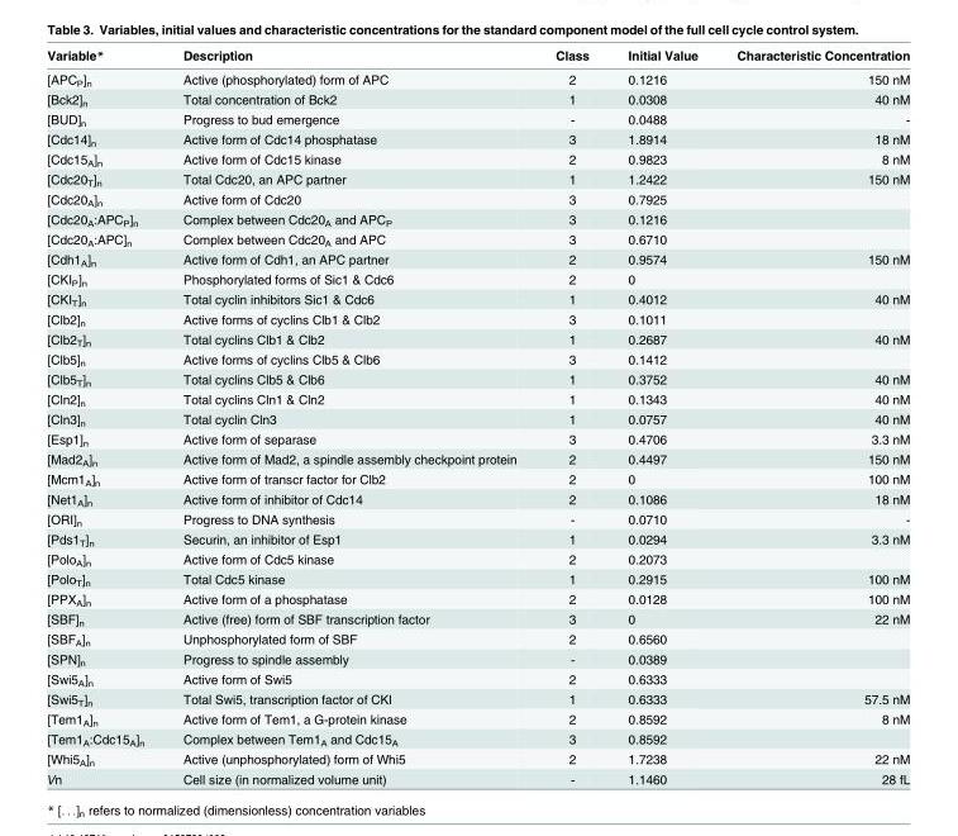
<table><thead><tr><td>Variable*</td><td>Description</td><td>Class</td><td>Initial Value</td><td>Characteristic Concentration</td></tr></thead><tbody><tr><td>[APC<sub>P</sub>]<sub>n</sub></td><td>Active (phosphorylated) form of APC</td><td>2</td><td>0.1216</td><td>150 nM</td></tr><tr><td>[Bck2]<sub>n</sub></td><td>Total concentration of Bck2</td><td>1</td><td>0.0308</td><td>40 nM</td></tr><tr><td>[BUD]<sub>n</sub></td><td>Progress to bud emergence</td><td>-</td><td>0.0488</td><td>-</td></tr><tr><td>[Cdc14]<sub>n</sub></td><td>Active form of Cdc14 phosphatase</td><td>3</td><td>1.8914</td><td>18 nM</td></tr><tr><td>[Cdc15<sub>A</sub>]<sub>n</sub></td><td>Active form of Cdc15 kinase</td><td>2</td><td>0.9823</td><td>8 nM</td></tr><tr><td>[Cdc20<sub>T</sub>]<sub>n</sub></td><td>Total Cdc20, an APC partner</td><td>1</td><td>1.2422</td><td>150 nM</td></tr><tr><td>[Cdc20<sub>A</sub>]<sub>n</sub></td><td>Active form of Cdc20</td><td>3</td><td>0.7925</td><td></td></tr><tr><td>[Cdc20<sub>A</sub>:APC<sub>P</sub>]<sub>n</sub></td><td>Complex between Cdc20<sub>A</sub> and APC<sub>P</sub></td><td>3</td><td>0.1216</td><td></td></tr><tr><td>[Cdc20<sub>A</sub>:APC]<sub>n</sub></td><td>Complex between Cdc20<sub>A</sub> and APC</td><td>3</td><td>0.6710</td><td></td></tr><tr><td>[Cdh1<sub>A</sub>]<sub>n</sub></td><td>Active form of Cdh1, an APC partner</td><td>2</td><td>0.9574</td><td>150 nM</td></tr><tr><td>[CKI<sub>P</sub>]<sub>n</sub></td><td>Phosphorylated forms of Sic1 &amp; Cdc6</td><td>2</td><td>0</td><td></td></tr><tr><td>[CKI<sub>T</sub>]<sub>n</sub></td><td>Total cyclin inhibitors Sic1 &amp; Cdc6</td><td>1</td><td>0.4012</td><td>40 nM</td></tr><tr><td>[Clb2]<sub>n</sub></td><td>Active forms of cyclins Clb1 &amp; Clb2</td><td>3</td><td>0.1011</td><td></td></tr><tr><td>[Clb2<sub>T</sub>]<sub>n</sub></td><td>Total cyclins Clb1 &amp; Clb2</td><td>1</td><td>0.2687</td><td>40 nM</td></tr><tr><td>[Clb5]<sub>n</sub></td><td>Active forms of cyclins Clb5 &amp; Clb6</td><td>3</td><td>0.1412</td><td></td></tr><tr><td>[Clb5<sub>T</sub>]<sub>n</sub></td><td>Total cyclins Clb5 &amp; Clb6</td><td>1</td><td>0.3752</td><td>40 nM</td></tr><tr><td>[Cln2]<sub>n</sub></td><td>Total cyclins Cln1 &amp; Cln2</td><td>1</td><td>0.1343</td><td>40 nM</td></tr><tr><td>[Cln3]<sub>n</sub></td><td>Total cyclin Cln3</td><td>1</td><td>0.0757</td><td>40 nM</td></tr><tr><td>[Esp1]<sub>n</sub></td><td>Active form of separase</td><td>3</td><td>0.4706</td><td>3.3 nM</td></tr><tr><td>[Mad2<sub>A</sub>]<sub>n</sub></td><td>Active form of Mad2, a spindle assembly checkpoint protein</td><td>2</td><td>0.4497</td><td>150 nM</td></tr><tr><td>[Mcm1<sub>A</sub>]<sub>n</sub></td><td>Active form of transcr factor for Clb2</td><td>2</td><td>0</td><td>100 nM</td></tr><tr><td>[Net1<sub>A</sub>]<sub>n</sub></td><td>Active form of inhibitor of Cdc14</td><td>2</td><td>0.1086</td><td>18 nM</td></tr><tr><td>[ORI]<sub>n</sub></td><td>Progress to DNA synthesis</td><td>-</td><td>0.0710</td><td>-</td></tr><tr><td>[Pds1<sub>T</sub>]<sub>n</sub></td><td>Securin, an inhibitor of Esp1</td><td>1</td><td>0.0294</td><td>3.3 nM</td></tr><tr><td>[Polo<sub>A</sub>]<sub>n</sub></td><td>Active form of Cdc5 kinase</td><td>2</td><td>0.2073</td><td></td></tr><tr><td>[Polo<sub>T</sub>]<sub>n</sub></td><td>Total Cdc5 kinase</td><td>1</td><td>0.2915</td><td>100 nM</td></tr><tr><td>[PPX<sub>A</sub>]<sub>n</sub></td><td>Active form of a phosphatase</td><td>2</td><td>0.0128</td><td>100 nM</td></tr><tr><td>[SBF]<sub>n</sub></td><td>Active (free) form of SBF transcription factor</td><td>3</td><td>0</td><td>22 nM</td></tr><tr><td>[SBF<sub>A</sub>]<sub>n</sub></td><td>Unphosphorylated form of SBF</td><td>2</td><td>0.6560</td><td></td></tr><tr><td>[SPN]<sub>n</sub></td><td>Progress to spindle assembly</td><td>-</td><td>0.0389</td><td></td></tr><tr><td>[Swi5<sub>A</sub>]<sub>n</sub></td><td>Active form of Swi5</td><td>2</td><td>0.6333</td><td></td></tr><tr><td>[Swi5<sub>T</sub>]<sub>n</sub></td><td>Total Swi5, transcription factor of CKI</td><td>1</td><td>0.6333</td><td>57.5 nM</td></tr><tr><td>[Tem1<sub>A</sub>]<sub>n</sub></td><td>Active form of Tem1, a G-protein kinase</td><td>2</td><td>0.8592</td><td>8 nM</td></tr><tr><td>[Tem1<sub>A</sub>:Cdc15<sub>A</sub>]<sub>n</sub></td><td>Complex between Tem1<sub>A</sub> and Cdc15<sub>A</sub></td><td>3</td><td>0.8592</td><td></td></tr><tr><td>[Whi5<sub>A</sub>]<sub>n</sub></td><td>Active (unphosphorylated) form of Whi5</td><td>2</td><td>1.7238</td><td>22 nM</td></tr><tr><td>Vn</td><td>Cell size (in normalized volume unit)</td><td>-</td><td>1.1460</td><td>28 fL</td></tr></tbody></table>